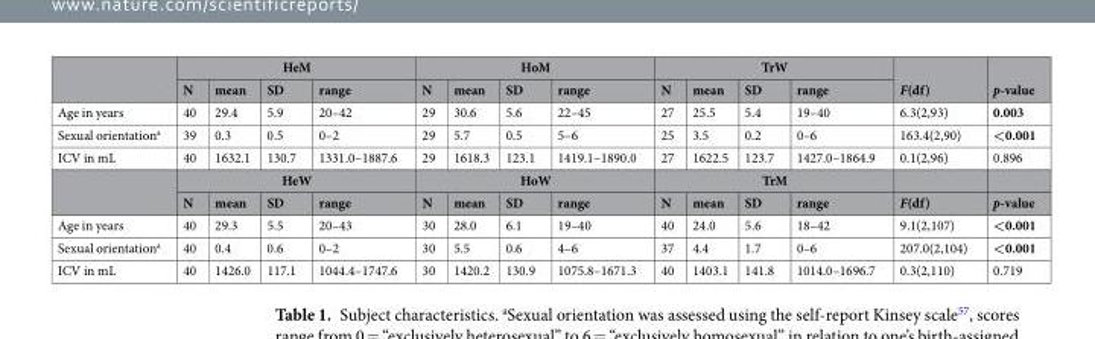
<table><thead><tr><td rowspan="2"></td><td colspan="4">HeM</td><td colspan="4">HoM</td><td colspan="4">TrW</td><td rowspan="2">F(df)</td><td rowspan="2">p-value</td></tr><tr><td>N</td><td>mean</td><td>SD</td><td>range</td><td>N</td><td>mean</td><td>SD</td><td>range</td><td>N</td><td>mean</td><td>SD</td><td>range</td></tr></thead><tbody><tr><td>Age in years</td><td>40</td><td>29.4</td><td>5.9</td><td>20–42</td><td>29</td><td>30.6</td><td>5.6</td><td>22–45</td><td>27</td><td>25.5</td><td>5.4</td><td>19–40</td><td>6.3(2,93)</td><td>0.003</td></tr><tr><td>Sexual orientation<sup>a</sup></td><td>39</td><td>0.3</td><td>0.5</td><td>0–2</td><td>29</td><td>5.7</td><td>0.5</td><td>5–6</td><td>25</td><td>3.5</td><td>0.2</td><td>0–6</td><td>163.4(2,90)</td><td>&lt;0.001</td></tr><tr><td rowspan="3">ICV in mL</td><td>40</td><td>1632.1</td><td>130.7</td><td>1331.0–1887.6</td><td>29</td><td>1618.3</td><td>123.1</td><td>1419.1–1890.0</td><td>27</td><td>1622.5</td><td>123.7</td><td>1427.0–1864.9</td><td>0.1(2,96)</td><td>0.896</td></tr><tr><td colspan="4">HeW</td><td colspan="4">HoW</td><td colspan="4">TrM</td><td></td><td></td></tr><tr><td>N</td><td>mean</td><td>SD</td><td>range</td><td>N</td><td>mean</td><td>SD</td><td>range</td><td>N</td><td>mean</td><td>SD</td><td>range</td><td>F(df)</td><td>p-value</td></tr><tr><td>Age in years</td><td>40</td><td>29.3</td><td>5.5</td><td>20–43</td><td>30</td><td>28.0</td><td>6.1</td><td>19–40</td><td>40</td><td>24.0</td><td>5.6</td><td>18–42</td><td>9.1(2,107)</td><td>&lt;0.001</td></tr><tr><td>Sexual orientation<sup>a</sup></td><td>40</td><td>0.4</td><td>0.6</td><td>0–2</td><td>30</td><td>5.5</td><td>0.6</td><td>4–6</td><td>37</td><td>4.4</td><td>1.7</td><td>0–6</td><td>207.0(2,104)</td><td>&lt;0.001</td></tr><tr><td>ICV in mL</td><td>40</td><td>1426.0</td><td>117.1</td><td>1044.4–1747.6</td><td>30</td><td>1420.2</td><td>130.9</td><td>1075.8–1671.3</td><td>40</td><td>1403.1</td><td>141.8</td><td>1014.0–1696.7</td><td>0.3(2,110)</td><td>0.719</td></tr></tbody></table>